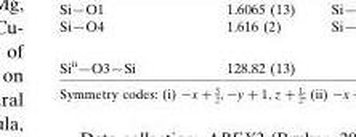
<table><tbody><tr><td>Si<sup>ii</sup>—O3—Si</td><td>128.82 (13)</td></tr></tbody></table>